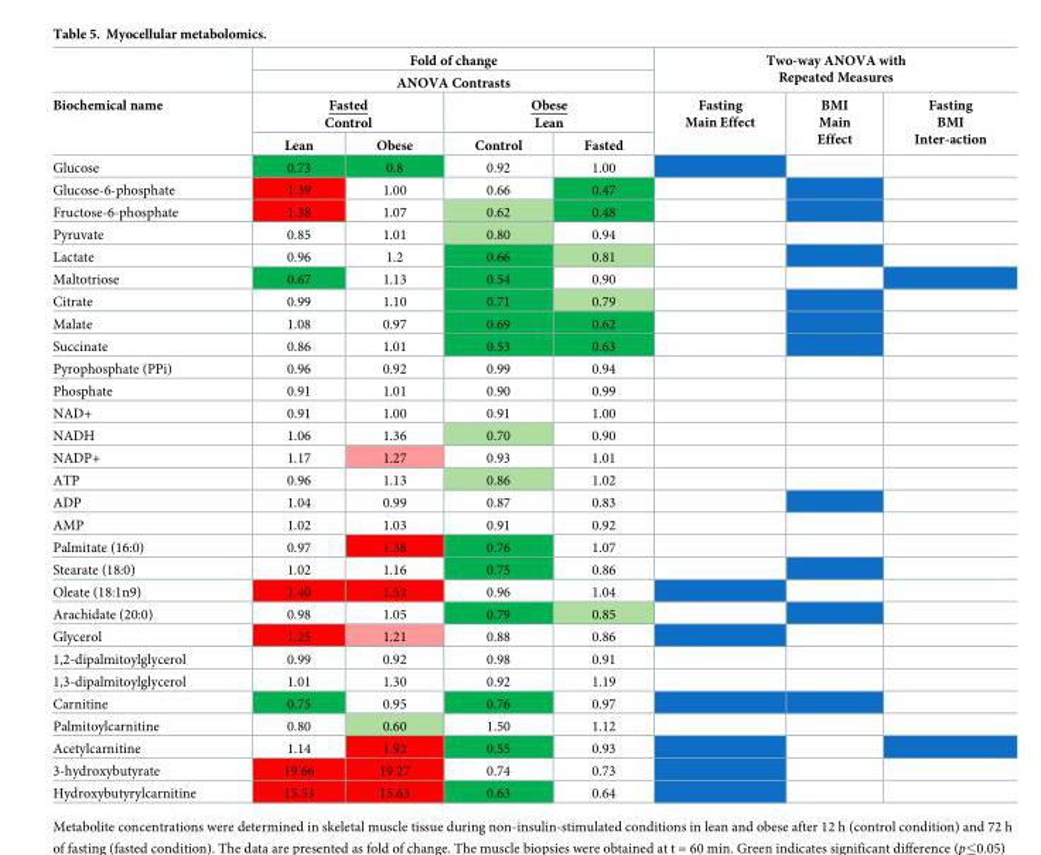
<table><thead><tr><td rowspan="4">Biochemical name</td><td rowspan="2" colspan="4">Fold of change ANOVA Contrasts</td><td rowspan="2" colspan="3">Two-way ANOVA with Repeated Measures</td></tr><tr></tr><tr><td colspan="2">Fasted Control</td><td colspan="2">Obese Lean</td><td rowspan="2">Fasting Main Effect</td><td rowspan="2">BMI Main Effect</td><td rowspan="2">Fasting BMI Inter-action</td></tr><tr><td>Lean</td><td>Obese</td><td>Control</td><td>Fasted</td></tr></thead><tbody><tr><td>Glucose</td><td>0.73</td><td>0.8</td><td>0.92</td><td>1.00</td><td></td><td></td><td></td></tr><tr><td>Glucose-6-phosphate</td><td>1.39</td><td>1.00</td><td>0.66</td><td>0.47</td><td></td><td></td><td></td></tr><tr><td>Fructose-6-phosphate</td><td>1.38</td><td>1.07</td><td>0.62</td><td>0.48</td><td></td><td></td><td></td></tr><tr><td>Pyruvate</td><td>0.85</td><td>1.01</td><td>0.80</td><td>0.94</td><td></td><td></td><td></td></tr><tr><td>Lactate</td><td>0.96</td><td>1.2</td><td>0.66</td><td>0.81</td><td></td><td></td><td></td></tr><tr><td>Maltotriose</td><td>0.67</td><td>1.13</td><td>0.54</td><td>0.90</td><td></td><td></td><td></td></tr><tr><td>Citrate</td><td>0.99</td><td>1.10</td><td>0.71</td><td>0.79</td><td></td><td></td><td></td></tr><tr><td>Malate</td><td>1.08</td><td>0.97</td><td>0.69</td><td>0.62</td><td></td><td></td><td></td></tr><tr><td>Succinate</td><td>0.86</td><td>1.01</td><td>0.53</td><td>0.63</td><td></td><td></td><td></td></tr><tr><td>Pyrophosphate (PPi)</td><td>0.96</td><td>0.92</td><td>0.99</td><td>0.94</td><td></td><td></td><td></td></tr><tr><td>Phosphate</td><td>0.91</td><td>1.01</td><td>0.90</td><td>0.99</td><td></td><td></td><td></td></tr><tr><td>NAD+</td><td>0.91</td><td>1.00</td><td>0.91</td><td>1.00</td><td></td><td></td><td></td></tr><tr><td>NADH</td><td>1.06</td><td>1.36</td><td>0.70</td><td>0.90</td><td></td><td></td><td></td></tr><tr><td>NADP+</td><td>1.17</td><td>1.27</td><td>0.93</td><td>1.01</td><td></td><td></td><td></td></tr><tr><td>ATP</td><td>0.96</td><td>1.13</td><td>0.86</td><td>1.02</td><td></td><td></td><td></td></tr><tr><td>ADP</td><td>1.04</td><td>0.99</td><td>0.87</td><td>0.83</td><td></td><td></td><td></td></tr><tr><td>AMP</td><td>1.02</td><td>1.03</td><td>0.91</td><td>0.92</td><td></td><td></td><td></td></tr><tr><td>Palmitate (16:0)</td><td>0.97</td><td>1.38</td><td>0.76</td><td>1.07</td><td></td><td></td><td></td></tr><tr><td>Stearate (18:0)</td><td>1.02</td><td>1.16</td><td>0.75</td><td>0.86</td><td></td><td></td><td></td></tr><tr><td>Oleate (18:1n9)</td><td>1.40</td><td>1.52</td><td>0.96</td><td>1.04</td><td></td><td></td><td></td></tr><tr><td>Arachidate (20:0)</td><td>0.98</td><td>1.05</td><td>0.79</td><td>0.85</td><td></td><td></td><td></td></tr><tr><td>Glycerol</td><td>1.25</td><td>1.21</td><td>0.88</td><td>0.86</td><td></td><td></td><td></td></tr><tr><td>1,2-dipalmitoylglycerol</td><td>0.99</td><td>0.92</td><td>0.98</td><td>0.91</td><td></td><td></td><td></td></tr><tr><td>1,3-dipalmitoylglycerol</td><td>1.01</td><td>1.30</td><td>0.92</td><td>1.19</td><td></td><td></td><td></td></tr><tr><td>Carnitine</td><td>0.75</td><td>0.95</td><td>0.76</td><td>0.97</td><td></td><td></td><td></td></tr><tr><td>Palmitoylcarnitine</td><td>0.80</td><td>0.60</td><td>1.50</td><td>1.12</td><td></td><td></td><td></td></tr><tr><td>Acetylcarnitine</td><td>1.14</td><td>1.92</td><td>0.55</td><td>0.93</td><td></td><td></td><td></td></tr><tr><td>3-hydroxybutyrate</td><td>19.66</td><td>19.27</td><td>0.74</td><td>0.73</td><td></td><td></td><td></td></tr><tr><td>Hydroxybutyrylcarnitine</td><td>15.53</td><td>15.63</td><td>0.63</td><td>0.64</td><td></td><td></td><td></td></tr></tbody></table>